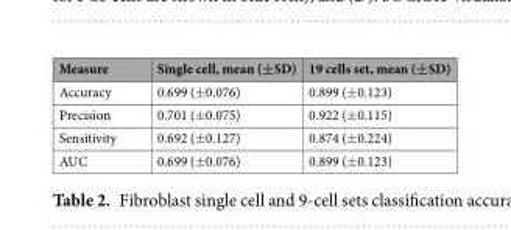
<table><thead><tr><td>Measure</td><td>Single cell, mean (±SD)</td><td>19 cells set, mean (±SD)</td></tr></thead><tbody><tr><td>Accuracy</td><td>0.699 (±0.076)</td><td>0.899 (±0.123)</td></tr><tr><td>Precision</td><td>0.701 (±0.075)</td><td>0.922 (±0.115)</td></tr><tr><td>Sensitivity</td><td>0.692 (±0.127)</td><td>0.874 (±0.224)</td></tr><tr><td>AUC</td><td>0.699 (±0.076)</td><td>0.899 (±0.123)</td></tr></tbody></table>